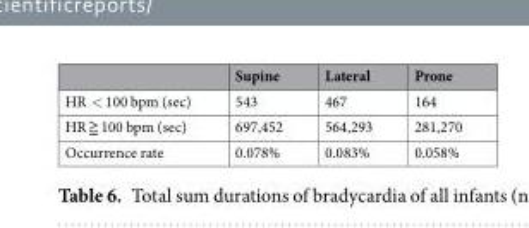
<table><thead><tr><td></td><td>Supine</td><td>Lateral</td><td>Prone</td></tr></thead><tbody><tr><td>HR &lt; 100 bpm (sec)</td><td>543</td><td>467</td><td>164</td></tr><tr><td>HR ≧ 100 bpm (sec)</td><td>697,452</td><td>564,293</td><td>281,270</td></tr><tr><td>Occurrence rate</td><td>0.078%</td><td>0.083%</td><td>0.058%</td></tr></tbody></table>